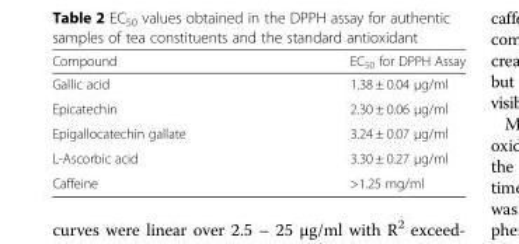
<table><thead><tr><td>Compound</td><td>EC<sub>50</sub> for DPPH Assay</td></tr></thead><tbody><tr><td>Gallic acid</td><td>1.38 ± 0.04 μg/ml</td></tr><tr><td>Epicatechin</td><td>2.30 ± 0.06 μg/ml</td></tr><tr><td>Epigallocatechin gallate</td><td>3.24 ± 0.07 μg/ml</td></tr><tr><td>L-Ascorbic acid</td><td>3.30 ± 0.27 μg/ml</td></tr><tr><td>Caffeine</td><td>&gt;1.25 mg/ml</td></tr></tbody></table>